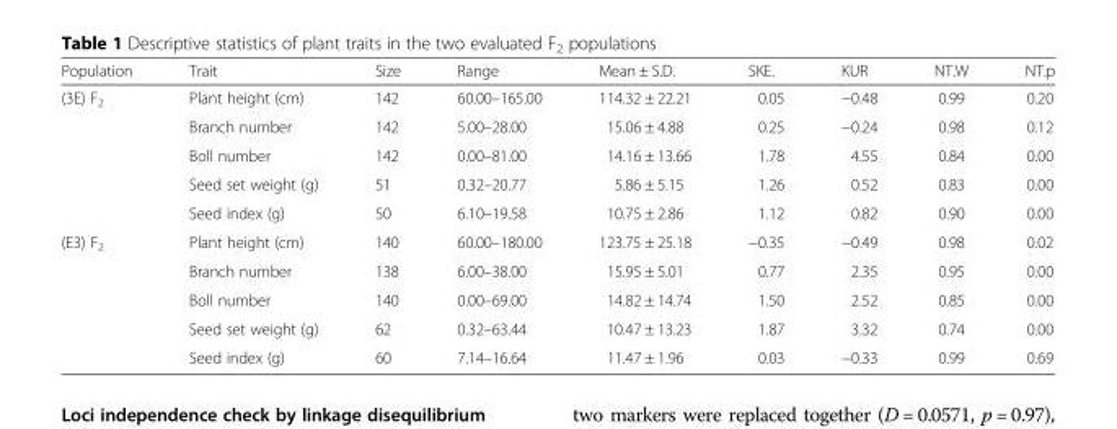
<table><thead><tr><td>Population</td><td>Trait</td><td>Size</td><td>Range</td><td>Mean ± S.D.</td><td>SKE.</td><td>KUR</td><td>NT.W</td><td>NT.p</td></tr></thead><tbody><tr><td rowspan="5">(3E) F<sub>2</sub></td><td>Plant height (cm)</td><td>142</td><td>60.00–165.00</td><td>114.32 ± 22.21</td><td>0.05</td><td>−0.48</td><td>0.99</td><td>0.20</td></tr><tr><td>Branch number</td><td>142</td><td>5.00–28.00</td><td>15.06 ± 4.88</td><td>0.25</td><td>−0.24</td><td>0.98</td><td>0.12</td></tr><tr><td>Boll number</td><td>142</td><td>0.00–81.00</td><td>14.16 ± 13.66</td><td>1.78</td><td>4.55</td><td>0.84</td><td>0.00</td></tr><tr><td>Seed set weight (g)</td><td>51</td><td>0.32–20.77</td><td>5.86 ± 5.15</td><td>1.26</td><td>0.52</td><td>0.83</td><td>0.00</td></tr><tr><td>Seed index (g)</td><td>50</td><td>6.10–19.58</td><td>10.75 ± 2.86</td><td>1.12</td><td>0.82</td><td>0.90</td><td>0.00</td></tr><tr><td rowspan="5">(E3) F<sub>2</sub></td><td>Plant height (cm)</td><td>140</td><td>60.00–180.00</td><td>123.75 ± 25.18</td><td>−0.35</td><td>−0.49</td><td>0.98</td><td>0.02</td></tr><tr><td>Branch number</td><td>138</td><td>6.00–38.00</td><td>15.95 ± 5.01</td><td>0.77</td><td>2.35</td><td>0.95</td><td>0.00</td></tr><tr><td>Boll number</td><td>140</td><td>0.00–69.00</td><td>14.82 ± 14.74</td><td>1.50</td><td>2.52</td><td>0.85</td><td>0.00</td></tr><tr><td>Seed set weight (g)</td><td>62</td><td>0.32–63.44</td><td>10.47 ± 13.23</td><td>1.87</td><td>3.32</td><td>0.74</td><td>0.00</td></tr><tr><td>Seed index (g)</td><td>60</td><td>7.14–16.64</td><td>11.47 ± 1.96</td><td>0.03</td><td>−0.33</td><td>0.99</td><td>0.69</td></tr></tbody></table>